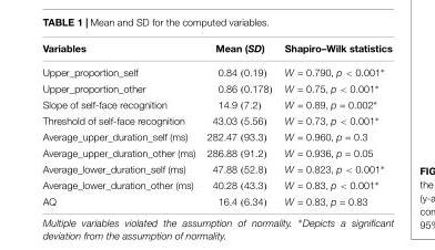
<table><thead><tr><td>Variables</td><td>Mean (SD)</td><td>Shapiro–Wilk statistics</td></tr></thead><tbody><tr><td>Upper_proportion_self</td><td>0.84 (0.19)</td><td>W = 0.790, p &lt; 0.001∗</td></tr><tr><td>Upper_proportion_other</td><td>0.86 (0.178)</td><td>W = 0.75, p &lt; 0.001∗</td></tr><tr><td>Slope of self-face recognition</td><td>14.9 (7.2)</td><td>W = 0.89, p = 0.002∗</td></tr><tr><td>Threshold of self-face recognition</td><td>43.03 (5.56)</td><td>W = 0.73, p &lt; 0.001∗</td></tr><tr><td>Average_upper_duration_self (ms)</td><td>282.47 (93.3)</td><td>W = 0.960, p = 0.3</td></tr><tr><td>Average_upper_duration_other (ms)</td><td>286.88 (91.2)</td><td>W = 0.936, p = 0.05</td></tr><tr><td>Average_lower_duration_self (ms)</td><td>47.88 (52.8)</td><td>W = 0.823, p &lt; 0.001∗</td></tr><tr><td>Average_lower_duration_other (ms)</td><td>40.28 (43.3)</td><td>W = 0.83, p &lt; 0.001∗</td></tr><tr><td>AQ</td><td>16.4 (6.34)</td><td>W = 0.83, p = 0.83</td></tr></tbody></table>